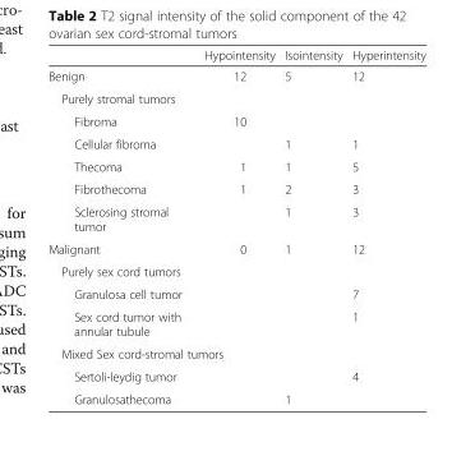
<table><thead><tr><td></td><td>Hypointensity</td><td>Isointensity</td><td>Hyperintensity</td></tr></thead><tbody><tr><td>Benign</td><td>12</td><td>5</td><td>12</td></tr><tr><td colspan="4">Purely stromal tumors</td></tr><tr><td>Fibroma</td><td>10</td><td></td><td></td></tr><tr><td>Cellular fibroma</td><td></td><td>1</td><td>1</td></tr><tr><td>Thecoma</td><td>1</td><td>1</td><td>5</td></tr><tr><td>Fibrothecoma</td><td>1</td><td>2</td><td>3</td></tr><tr><td>Sclerosing stromal tumor</td><td></td><td>1</td><td>3</td></tr><tr><td>Malignant</td><td>0</td><td>1</td><td>12</td></tr><tr><td colspan="4">Purely sex cord tumors</td></tr><tr><td>Granulosa cell tumor</td><td></td><td></td><td>7</td></tr><tr><td>Sex cord tumor with annular tubule</td><td></td><td></td><td>1</td></tr><tr><td colspan="4">Mixed Sex cord-stromal tumors</td></tr><tr><td>Sertoli-leydig tumor</td><td></td><td></td><td>4</td></tr><tr><td>Granulosathecoma</td><td></td><td>1</td><td></td></tr></tbody></table>